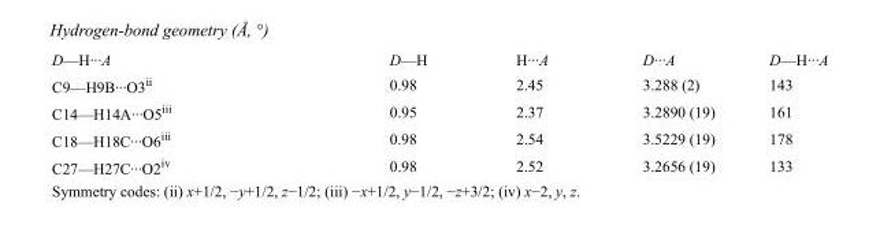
<table><tbody><tr><td>D—H···A</td><td>D—H</td><td>H···A</td><td>D···A</td><td>D—H···A</td></tr><tr><td>C9—H9B···O3<sup>ii</sup></td><td>0.98</td><td>2.45</td><td>3.288 (2)</td><td>143</td></tr><tr><td>C14—H14A···O5<sup>iii</sup></td><td>0.95</td><td>2.37</td><td>3.2890 (19)</td><td>161</td></tr><tr><td>C18—H18C···O6<sup>iii</sup></td><td>0.98</td><td>2.54</td><td>3.5229 (19)</td><td>178</td></tr><tr><td>C27—H27C···O2<sup>iv</sup></td><td>0.98</td><td>2.52</td><td>3.2656 (19)</td><td>133</td></tr></tbody></table>